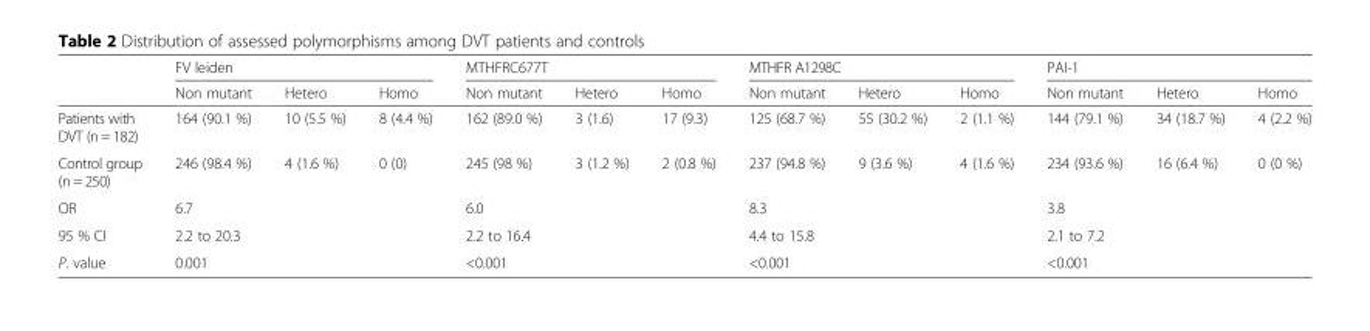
<table><thead><tr><td rowspan="2"></td><td colspan="3">FV leiden</td><td colspan="3">MTHFRC677T</td><td colspan="3">MTHFR A1298C</td><td colspan="3">PAI-1</td></tr><tr><td>Non mutant</td><td>Hetero</td><td>Homo</td><td>Non mutant</td><td>Hetero</td><td>Homo</td><td>Non mutant</td><td>Hetero</td><td>Homo</td><td>Non mutant</td><td>Hetero</td><td>Homo</td></tr></thead><tbody><tr><td>Patients with DVT (n = 182)</td><td>164 (90.1 %)</td><td>10 (5.5 %)</td><td>8 (4.4 %)</td><td>162 (89.0 %)</td><td>3 (1.6)</td><td>17 (9.3)</td><td>125 (68.7 %)</td><td>55 (30.2 %)</td><td>2 (1.1 %)</td><td>144 (79.1 %)</td><td>34 (18.7 %)</td><td>4 (2.2 %)</td></tr><tr><td>Control group (n = 250)</td><td>246 (98.4 %)</td><td>4 (1.6 %)</td><td>0 (0)</td><td>245 (98 %)</td><td>3 (1.2 %)</td><td>2 (0.8 %)</td><td>237 (94.8 %)</td><td>9 (3.6 %)</td><td>4 (1.6 %)</td><td>234 (93.6 %)</td><td>16 (6.4 %)</td><td>0 (0 %)</td></tr><tr><td>OR</td><td colspan="3">6.7</td><td colspan="3">6.0</td><td colspan="3">8.3</td><td colspan="3">3.8</td></tr><tr><td>95 % CI</td><td colspan="3">2.2 to 20.3</td><td colspan="3">2.2 to 16.4</td><td colspan="3">4.4 to 15.8</td><td colspan="3">2.1 to 7.2</td></tr><tr><td>P. value</td><td colspan="3">0.001</td><td colspan="3">&lt;0.001</td><td colspan="3">&lt;0.001</td><td colspan="3">&lt;0.001</td></tr></tbody></table>